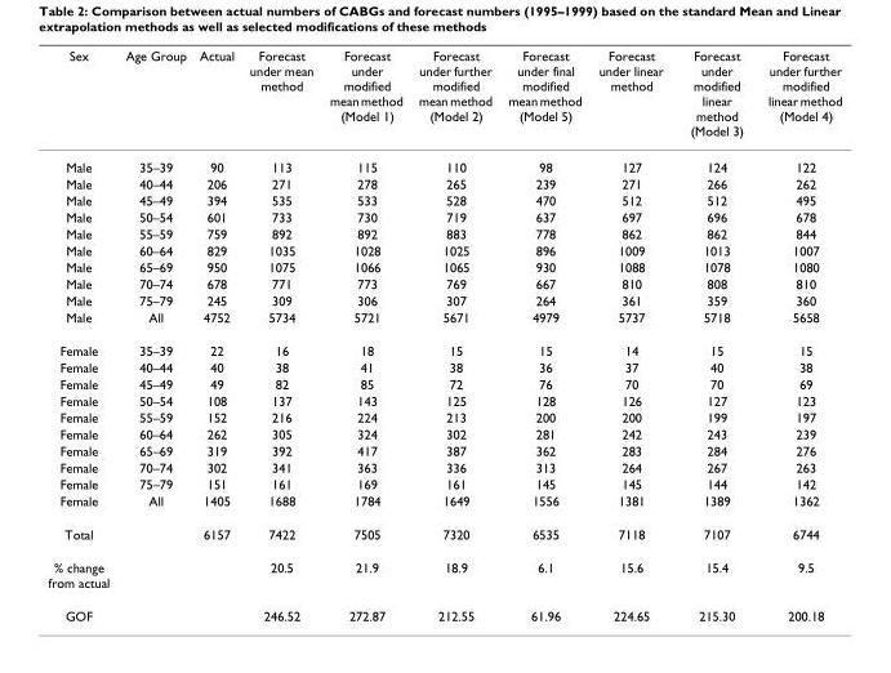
<table><thead><tr><td>Sex</td><td>Age Group</td><td>Actual</td><td>Forecast under mean method</td><td>Forecast under modified mean method (Model 1)</td><td>Forecast under further modified mean method (Model 2)</td><td>Forecast under final modified mean method (Model 5)</td><td>Forecast under linear method</td><td>Forecast under modified linear method (Model 3)</td><td>Forecast under further modified linear method (Model 4)</td></tr></thead><tbody><tr><td>Male</td><td>35–39</td><td>90</td><td>113</td><td>115</td><td>110</td><td>98</td><td>127</td><td>124</td><td>122</td></tr><tr><td>Male</td><td>40–44</td><td>206</td><td>271</td><td>278</td><td>265</td><td>239</td><td>271</td><td>266</td><td>262</td></tr><tr><td>Male</td><td>45–49</td><td>394</td><td>535</td><td>533</td><td>528</td><td>470</td><td>512</td><td>512</td><td>495</td></tr><tr><td>Male</td><td>50–54</td><td>601</td><td>733</td><td>730</td><td>719</td><td>637</td><td>697</td><td>696</td><td>678</td></tr><tr><td>Male</td><td>55–59</td><td>759</td><td>892</td><td>892</td><td>883</td><td>778</td><td>862</td><td>862</td><td>844</td></tr><tr><td>Male</td><td>60–64</td><td>829</td><td>1035</td><td>1028</td><td>1025</td><td>896</td><td>1009</td><td>1013</td><td>1007</td></tr><tr><td>Male</td><td>65–69</td><td>950</td><td>1075</td><td>1066</td><td>1065</td><td>930</td><td>1088</td><td>1078</td><td>1080</td></tr><tr><td>Male</td><td>70–74</td><td>678</td><td>771</td><td>773</td><td>769</td><td>667</td><td>810</td><td>808</td><td>810</td></tr><tr><td>Male</td><td>75–79</td><td>245</td><td>309</td><td>306</td><td>307</td><td>264</td><td>361</td><td>359</td><td>360</td></tr><tr><td>Male</td><td>All</td><td>4752</td><td>5734</td><td>5721</td><td>5671</td><td>4979</td><td>5737</td><td>5718</td><td>5658</td></tr><tr><td>Female</td><td>35–39</td><td>22</td><td>16</td><td>18</td><td>15</td><td>15</td><td>14</td><td>15</td><td>15</td></tr><tr><td>Female</td><td>40–44</td><td>40</td><td>38</td><td>41</td><td>38</td><td>36</td><td>37</td><td>40</td><td>38</td></tr><tr><td>Female</td><td>45–49</td><td>49</td><td>82</td><td>85</td><td>72</td><td>76</td><td>70</td><td>70</td><td>69</td></tr><tr><td>Female</td><td>50–54</td><td>108</td><td>137</td><td>143</td><td>125</td><td>128</td><td>126</td><td>127</td><td>123</td></tr><tr><td>Female</td><td>55–59</td><td>152</td><td>216</td><td>224</td><td>213</td><td>200</td><td>200</td><td>199</td><td>197</td></tr><tr><td>Female</td><td>60–64</td><td>262</td><td>305</td><td>324</td><td>302</td><td>281</td><td>242</td><td>243</td><td>239</td></tr><tr><td>Female</td><td>65–69</td><td>319</td><td>392</td><td>417</td><td>387</td><td>362</td><td>283</td><td>284</td><td>276</td></tr><tr><td>Female</td><td>70–74</td><td>302</td><td>341</td><td>363</td><td>336</td><td>313</td><td>264</td><td>267</td><td>263</td></tr><tr><td>Female</td><td>75–79</td><td>151</td><td>161</td><td>169</td><td>161</td><td>145</td><td>145</td><td>144</td><td>142</td></tr><tr><td>Female</td><td>All</td><td>1405</td><td>1688</td><td>1784</td><td>1649</td><td>1556</td><td>1381</td><td>1389</td><td>1362</td></tr><tr><td>Total</td><td></td><td>6157</td><td>7422</td><td>7505</td><td>7320</td><td>6535</td><td>7118</td><td>7107</td><td>6744</td></tr><tr><td>% change from actual</td><td></td><td></td><td>20.5</td><td>21.9</td><td>18.9</td><td>6.1</td><td>15.6</td><td>15.4</td><td>9.5</td></tr><tr><td>GOF</td><td></td><td></td><td>246.52</td><td>272.87</td><td>212.55</td><td>61.96</td><td>224.65</td><td>215.30</td><td>200.18</td></tr></tbody></table>